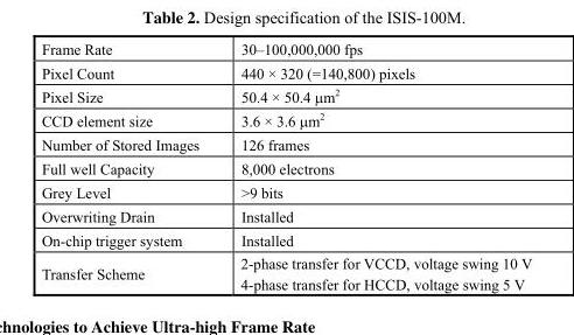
<table><tbody><tr><td>Frame Rate</td><td>30–100,000,000 fps</td></tr><tr><td>Pixel Count</td><td>440 × 320 (=140,800) pixels</td></tr><tr><td>Pixel Size</td><td>50.4 × 50.4 μm<sup>2</sup></td></tr><tr><td>CCD element size</td><td>3.6 × 3.6 μm<sup>2</sup></td></tr><tr><td>Number of Stored Images</td><td>126 frames</td></tr><tr><td>Full well Capacity</td><td>8,000 electrons</td></tr><tr><td>Grey Level</td><td>&gt;9 bits</td></tr><tr><td>Overwriting Drain</td><td>Installed</td></tr><tr><td>On-chip trigger system</td><td>Installed</td></tr><tr><td>Transfer Scheme</td><td>2-phase transfer for VCCD, voltage swing 10 V 4-phase transfer for HCCD, voltage swing 5 V</td></tr></tbody></table>